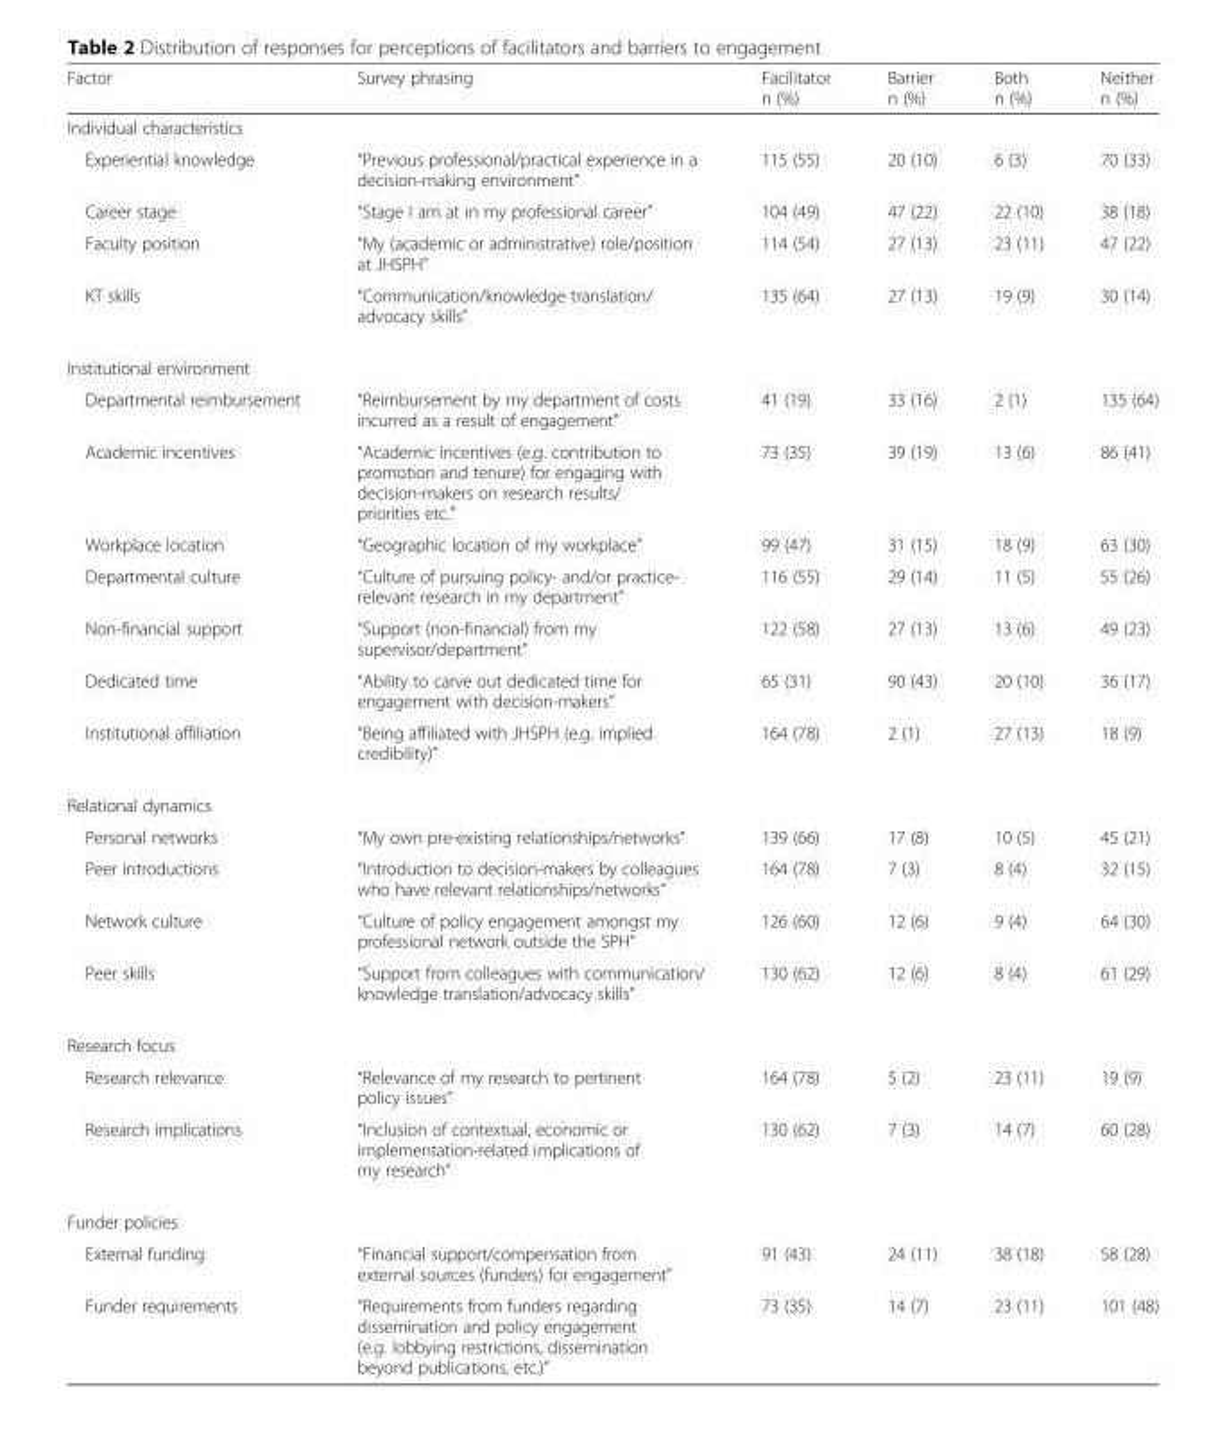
<table><thead><tr><td>Factor</td><td>Survey phrasing</td><td>Facilitator n (%)</td><td>Barrier n (%)</td><td>Both n (%)</td><td>Neither n (%)</td></tr></thead><tbody><tr><td colspan="6">Individual characteristics</td></tr><tr><td>Experiential knowledge</td><td>“Previous professional/practical experience in a decision-making environment”</td><td>115 (55)</td><td>20 (10)</td><td>6 (3)</td><td>70 (33)</td></tr><tr><td>Career stage</td><td>“Stage I am at in my professional career”</td><td>104 (49)</td><td>47 (22)</td><td>22 (10)</td><td>38 (18)</td></tr><tr><td>Faculty position</td><td>“My (academic or administrative) role/position at JHSPH”</td><td>114 (54)</td><td>27 (13)</td><td>23 (11)</td><td>47 (22)</td></tr><tr><td>KT skills</td><td>“Communication/knowledge translation/ advocacy skills”</td><td>135 (64)</td><td>27 (13)</td><td>19 (9)</td><td>30 (14)</td></tr><tr><td colspan="6">Institutional environment</td></tr><tr><td>Departmental reimbursement</td><td>“Reimbursement by my department of costs incurred as a result of engagement”</td><td>41 (19)</td><td>33 (16)</td><td>2 (1)</td><td>135 (64)</td></tr><tr><td>Academic incentives</td><td>“Academic incentives (e.g. contribution to promotion and tenure) for engaging with decision-makers on research results/ priorities etc.”</td><td>73 (35)</td><td>39 (19)</td><td>13 (6)</td><td>86 (41)</td></tr><tr><td>Workplace location</td><td>“Geographic location of my workplace”</td><td>99 (47)</td><td>31 (15)</td><td>18 (9)</td><td>63 (30)</td></tr><tr><td>Departmental culture</td><td>“Culture of pursuing policy- and/or practice- relevant research in my department”</td><td>116 (55)</td><td>29 (14)</td><td>11 (5)</td><td>55 (26)</td></tr><tr><td>Non-financial support</td><td>“Support (non-financial) from my supervisor/department”</td><td>122 (58)</td><td>27 (13)</td><td>13 (6)</td><td>49 (23)</td></tr><tr><td>Dedicated time</td><td>“Ability to carve out dedicated time for engagement with decision-makers”</td><td>65 (31)</td><td>90 (43)</td><td>20 (10)</td><td>36 (17)</td></tr><tr><td>Institutional affiliation</td><td>“Being affiliated with JHSPH (e.g. implied credibility)”</td><td>164 (78)</td><td>2 (1)</td><td>27 (13)</td><td>18 (9)</td></tr><tr><td colspan="6">Relational dynamics</td></tr><tr><td>Personal networks</td><td>“My own pre-existing relationships/networks”</td><td>139 (66)</td><td>17 (8)</td><td>10 (5)</td><td>45 (21)</td></tr><tr><td>Peer introductions</td><td>“Introduction to decision-makers by colleagues who have relevant relationships/networks”</td><td>164 (78)</td><td>7 (3)</td><td>8 (4)</td><td>32 (15)</td></tr><tr><td>Network culture</td><td>“Culture of policy engagement amongst my professional network outside the SPH”</td><td>126 (60)</td><td>12 (6)</td><td>9 (4)</td><td>64 (30)</td></tr><tr><td>Peer skills</td><td>“Support from colleagues with communication/ knowledge translation/advocacy skills”</td><td>130 (62)</td><td>12 (6)</td><td>8 (4)</td><td>61 (29)</td></tr><tr><td colspan="6">Research focus</td></tr><tr><td>Research relevance</td><td>“Relevance of my research to pertinent policy issues”</td><td>164 (78)</td><td>5 (2)</td><td>23 (11)</td><td>19 (9)</td></tr><tr><td>Research implications</td><td>“Inclusion of contextual, economic or implementation-related implications of my research”</td><td>130 (62)</td><td>7 (3)</td><td>14 (7)</td><td>60 (28)</td></tr><tr><td colspan="6">Funder policies</td></tr><tr><td>External funding</td><td>“Financial support/compensation from external sources (funders) for engagement”</td><td>91 (43)</td><td>24 (11)</td><td>38 (18)</td><td>58 (28)</td></tr><tr><td>Funder requirements</td><td>“Requirements from funders regarding dissemination and policy engagement (e.g. lobbying restrictions, dissemination beyond publications, etc.)”</td><td>73 (35)</td><td>14 (7)</td><td>23 (11)</td><td>101 (48)</td></tr></tbody></table>